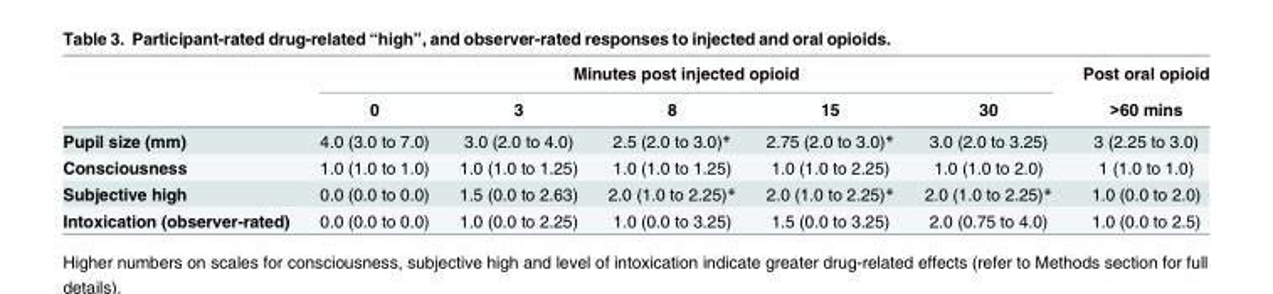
<table><thead><tr><td rowspan="2"></td><td colspan="5">Minutes post injected opioid</td><td rowspan="2">Post oral opioid &gt;60 mins</td></tr><tr><td>0</td><td>3</td><td>8</td><td>15</td><td>30</td></tr></thead><tbody><tr><td>Pupil size (mm)</td><td>4.0 (3.0 to 7.0)</td><td>3.0 (2.0 to 4.0)</td><td>2.5 (2.0 to 3.0)*</td><td>2.75 (2.0 to 3.0)*</td><td>3.0 (2.0 to 3.25)</td><td>3 (2.25 to 3.0)</td></tr><tr><td>Consciousness</td><td>1.0 (1.0 to 1.0)</td><td>1.0 (1.0 to 1.25)</td><td>1.0 (1.0 to 1.25)</td><td>1.0 (1.0 to 2.25)</td><td>1.0 (1.0 to 2.0)</td><td>1 (1.0 to 1.0)</td></tr><tr><td>Subjective high</td><td>0.0 (0.0 to 0.0)</td><td>1.5 (0.0 to 2.63)</td><td>2.0 (1.0 to 2.25)*</td><td>2.0 (1.0 to 2.25)*</td><td>2.0 (1.0 to 2.25)*</td><td>1.0 (0.0 to 2.0)</td></tr><tr><td>Intoxication (observer-rated)</td><td>0.0 (0.0 to 0.0)</td><td>1.0 (0.0 to 2.25)</td><td>1.0 (0.0 to 3.25)</td><td>1.5 (0.0 to 3.25)</td><td>2.0 (0.75 to 4.0)</td><td>1.0 (0.0 to 2.5)</td></tr></tbody></table>